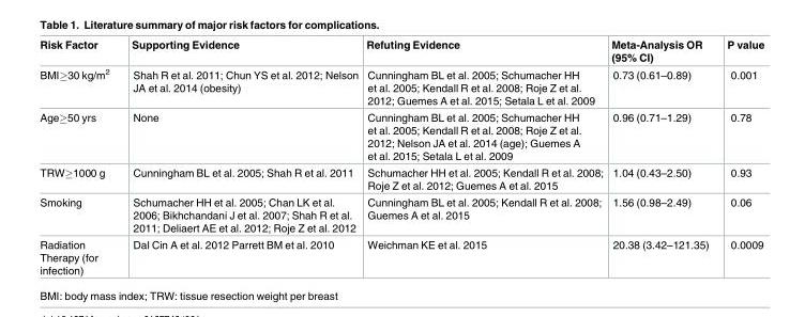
<table><thead><tr><td>Risk Factor</td><td>Supporting Evidence</td><td>Refuting Evidence</td><td>Meta-Analysis OR (95% CI)</td><td>P value</td></tr></thead><tbody><tr><td>BMI≥30 kg/m<sup>2</sup></td><td>Shah R et al. 2011; Chun YS et al. 2012; Nelson JA et al. 2014 (obesity)</td><td>Cunningham BL et al. 2005; Schumacher HH et al. 2005; Kendall R et al. 2008; Roje Z et al. 2012; Guemes A et al. 2015; Setala L et al. 2009</td><td>0.73 (0.61–0.89)</td><td>0.001</td></tr><tr><td>Age≥50 yrs</td><td>None</td><td>Cunningham BL et al. 2005; Schumacher HH et al. 2005; Kendall R et al. 2008; Roje Z et al. 2012; Nelson JA et al. 2014 (age); Guemes A et al. 2015; Setala L et al. 2009</td><td>0.96 (0.71–1.29)</td><td>0.78</td></tr><tr><td>TRW≥1000 g</td><td>Cunningham BL et al. 2005; Shah R et al. 2011</td><td>Schumacher HH et al. 2005; Kendall R et al. 2008; Roje Z et al. 2012; Guemes A et al. 2015</td><td>1.04 (0.43–2.50)</td><td>0.93</td></tr><tr><td>Smoking</td><td>Schumacher HH et al. 2005; Chan LK et al. 2006; Bikhchandani J et al. 2007; Shah R et al. 2011; Deliaert AE et al. 2012; Roje Z et al. 2012</td><td>Cunningham BL et al. 2005; Kendall R et al. 2008; Guemes A et al. 2015</td><td>1.56 (0.98–2.49)</td><td>0.06</td></tr><tr><td>Radiation Therapy (for infection)</td><td>Dal Cin A et al. 2012 Parrett BM et al. 2010</td><td>Weichman KE et al. 2015</td><td>20.38 (3.42–121.35)</td><td>0.0009</td></tr></tbody></table>